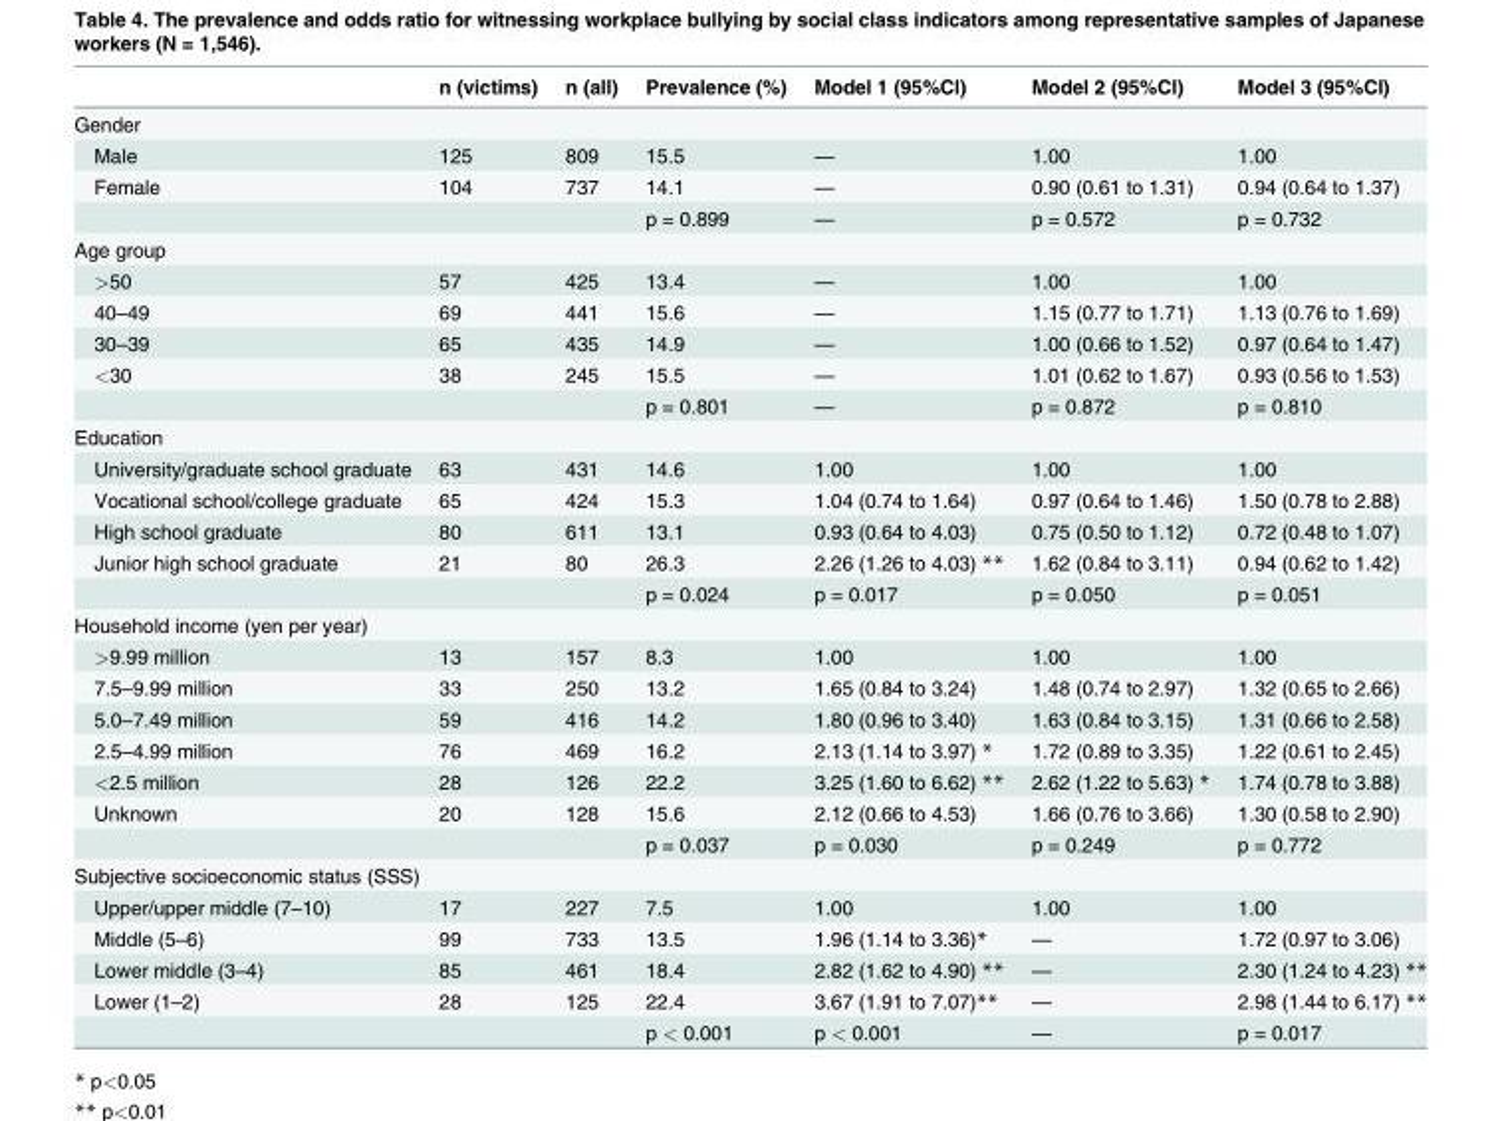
<table><thead><tr><td></td><td>n (victims)</td><td>n (all)</td><td>Prevalence (%)</td><td>Model 1 (95%Cl)</td><td>Model 2 (95%Cl)</td><td>Model 3 (95%Cl)</td></tr></thead><tbody><tr><td colspan="7">Gender</td></tr><tr><td>Male</td><td>125</td><td>809</td><td>15.5</td><td>—</td><td>1.00</td><td>1.00</td></tr><tr><td rowspan="2">Female</td><td>104</td><td>737</td><td>14.1</td><td>—</td><td>0.90 (0.61 to 1.31)</td><td>0.94 (0.64 to 1.37)</td></tr><tr><td></td><td></td><td>p = 0.899</td><td>—</td><td>p = 0.572</td><td>p = 0.732</td></tr><tr><td colspan="7">Age group</td></tr><tr><td>&gt;50</td><td>57</td><td>425</td><td>13.4</td><td>—</td><td>1.00</td><td>1.00</td></tr><tr><td>40–49</td><td>69</td><td>441</td><td>15.6</td><td>—</td><td>1.15 (0.77 to 1.71)</td><td>1.13 (0.76 to 1.69)</td></tr><tr><td>30–39</td><td>65</td><td>435</td><td>14.9</td><td>—</td><td>1.00 (0.66 to 1.52)</td><td>0.97 (0.64 to 1.47)</td></tr><tr><td rowspan="2">&lt;30</td><td>38</td><td>245</td><td>15.5</td><td>—</td><td>1.01 (0.62 to 1.67)</td><td>0.93 (0.56 to 1.53)</td></tr><tr><td></td><td></td><td>p = 0.801</td><td>—</td><td>p = 0.872</td><td>p = 0.810</td></tr><tr><td colspan="7">Education</td></tr><tr><td>University/graduate school graduate</td><td>63</td><td>431</td><td>14.6</td><td>1.00</td><td>1.00</td><td>1.00</td></tr><tr><td>Vocational school/college graduate</td><td>65</td><td>424</td><td>15.3</td><td>1.04 (0.74 to 1.64)</td><td>0.97 (0.64 to 1.46)</td><td>1.50 (0.78 to 2.88)</td></tr><tr><td>High school graduate</td><td>80</td><td>611</td><td>13.1</td><td>0.93 (0.64 to 4.03)</td><td>0.75 (0.50 to 1.12)</td><td>0.72 (0.48 to 1.07)</td></tr><tr><td rowspan="2">Junior high school graduate</td><td>21</td><td>80</td><td>26.3</td><td>2.26 (1.26 to 4.03) **</td><td>1.62 (0.84 to 3.11)</td><td>0.94 (0.62 to 1.42)</td></tr><tr><td></td><td></td><td>p = 0.024</td><td>p = 0.017</td><td>p = 0.050</td><td>p = 0.051</td></tr><tr><td colspan="7">Household income (yen per year)</td></tr><tr><td>&gt;9.99 million</td><td>13</td><td>157</td><td>8.3</td><td>1.00</td><td>1.00</td><td>1.00</td></tr><tr><td>7.5–9.99 million</td><td>33</td><td>250</td><td>13.2</td><td>1.65 (0.84 to 3.24)</td><td>1.48 (0.74 to 2.97)</td><td>1.32 (0.65 to 2.66)</td></tr><tr><td>5.0–7.49 million</td><td>59</td><td>416</td><td>14.2</td><td>1.80 (0.96 to 3.40)</td><td>1.63 (0.84 to 3.15)</td><td>1.31 (0.66 to 2.58)</td></tr><tr><td>2.5–4.99 million</td><td>76</td><td>469</td><td>16.2</td><td>2.13 (1.14 to 3.97) *</td><td>1.72 (0.89 to 3.35)</td><td>1.22 (0.61 to 2.45)</td></tr><tr><td>&lt;2.5 million</td><td>28</td><td>126</td><td>22.2</td><td>3.25 (1.60 to 6.62) **</td><td>2.62 (1.22 to 5.63) *</td><td>1.74 (0.78 to 3.88)</td></tr><tr><td rowspan="2">Unknown</td><td>20</td><td>128</td><td>15.6</td><td>2.12 (0.66 to 4.53)</td><td>1.66 (0.76 to 3.66)</td><td>1.30 (0.58 to 2.90)</td></tr><tr><td></td><td></td><td>p = 0.037</td><td>p = 0.030</td><td>p = 0.249</td><td>p = 0.772</td></tr><tr><td colspan="7">Subjective socioeconomic status (SSS)</td></tr><tr><td>Upper/upper middle (7–10)</td><td>17</td><td>227</td><td>7.5</td><td>1.00</td><td>1.00</td><td>1.00</td></tr><tr><td>Middle (5–6)</td><td>99</td><td>733</td><td>13.5</td><td>1.96 (1.14 to 3.36)*</td><td>—</td><td>1.72 (0.97 to 3.06)</td></tr><tr><td>Lower middle (3–4)</td><td>85</td><td>461</td><td>18.4</td><td>2.82 (1.62 to 4.90) **</td><td>—</td><td>2.30 (1.24 to 4.23) **</td></tr><tr><td rowspan="2">Lower (1–2)</td><td>28</td><td>125</td><td>22.4</td><td>3.67 (1.91 to 7.07)**</td><td>—</td><td>2.98 (1.44 to 6.17) **</td></tr><tr><td></td><td></td><td>p &lt; 0.001</td><td>p &lt; 0.001</td><td>—</td><td>p = 0.017</td></tr></tbody></table>